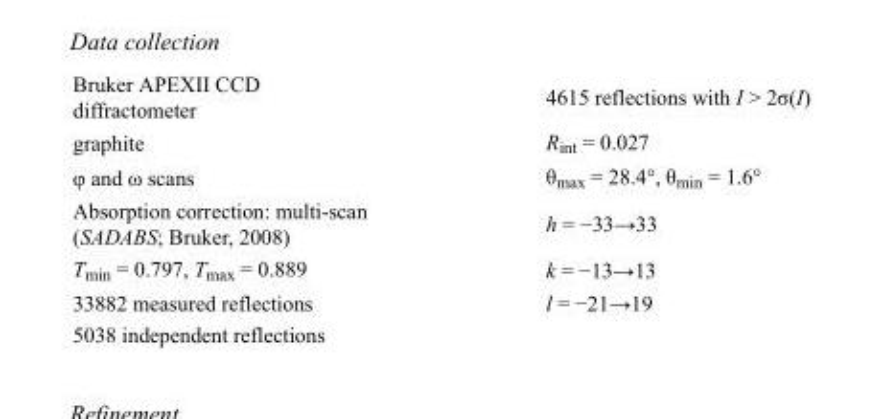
<table><tbody><tr><td>Bruker APEXII CCD diffractometer</td><td>4615 reflections with I &gt; 2σ(I)</td></tr><tr><td>graphite</td><td>R<sub>int</sub> = 0.027</td></tr><tr><td>φ and ω scans</td><td>θ<sub>max</sub> = 28.4°, θ<sub>min</sub> = 1.6°</td></tr><tr><td>Absorption correction: multi-scan (SADABS; Bruker, 2008)</td><td>h = −33→33</td></tr><tr><td>T<sub>min</sub> = 0.797, T<sub>max</sub> = 0.889</td><td>k = −13→13</td></tr><tr><td>33882 measured reflections</td><td>l = −21→19</td></tr><tr><td>5038 independent reflections</td><td></td></tr></tbody></table>